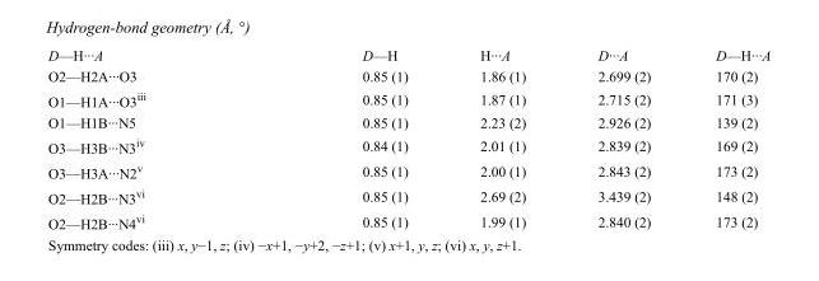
<table><tbody><tr><td>D—H···A</td><td>D—H</td><td>H···A</td><td>D···A</td><td>D—H···A</td></tr><tr><td>O2—H2A···O3</td><td>0.85 (1)</td><td>1.86 (1)</td><td>2.699 (2)</td><td>170 (2)</td></tr><tr><td>O1—H1A···O3<sup>iii</sup></td><td>0.85 (1)</td><td>1.87 (1)</td><td>2.715 (2)</td><td>171 (3)</td></tr><tr><td>O1—H1B···N5</td><td>0.85 (1)</td><td>2.23 (2)</td><td>2.926 (2)</td><td>139 (2)</td></tr><tr><td>O3—H3B···N3<sup>iv</sup></td><td>0.84 (1)</td><td>2.01 (1)</td><td>2.839 (2)</td><td>169 (2)</td></tr><tr><td>O3—H3A···N2<sup>v</sup></td><td>0.85 (1)</td><td>2.00 (1)</td><td>2.843 (2)</td><td>173 (2)</td></tr><tr><td>O2—H2B···N3<sup>vi</sup></td><td>0.85 (1)</td><td>2.69 (2)</td><td>3.439 (2)</td><td>148 (2)</td></tr><tr><td>O2—H2B···N4<sup>vi</sup></td><td>0.85 (1)</td><td>1.99 (1)</td><td>2.840 (2)</td><td>173 (2)</td></tr></tbody></table>